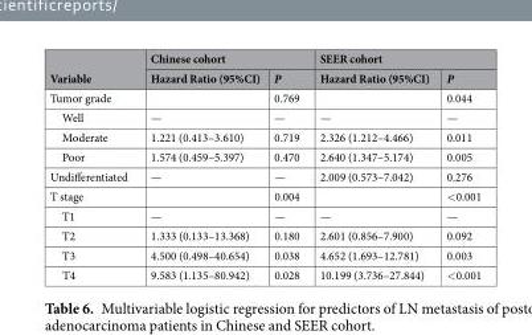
<table><thead><tr><td rowspan="2">Variable</td><td colspan="2">Chinese cohort</td><td colspan="2">SEER cohort</td></tr><tr><td>Hazard Ratio (95%CI)</td><td>P</td><td>Hazard Ratio (95%CI)</td><td>P</td></tr></thead><tbody><tr><td>Tumor grade</td><td></td><td>0.769</td><td></td><td>0.044</td></tr><tr><td>Well</td><td>—</td><td>—</td><td>—</td><td>—</td></tr><tr><td>Moderate</td><td>1.221 (0.413–3.610)</td><td>0.719</td><td>2.326 (1.212–4.466)</td><td>0.011</td></tr><tr><td>Poor</td><td>1.574 (0.459–5.397)</td><td>0.470</td><td>2.640 (1.347–5.174)</td><td>0.005</td></tr><tr><td>Undifferentiated</td><td>—</td><td>—</td><td>2.009 (0.573–7.042)</td><td>0.276</td></tr><tr><td>T stage</td><td></td><td>0.004</td><td></td><td>&lt;0.001</td></tr><tr><td>T1</td><td>—</td><td>—</td><td>—</td><td>—</td></tr><tr><td>T2</td><td>1.333 (0.133–13.368)</td><td>0.180</td><td>2.601 (0.856–7.900)</td><td>0.092</td></tr><tr><td>T3</td><td>4.500 (0.498–40.654)</td><td>0.038</td><td>4.652 (1.693–12.781)</td><td>0.003</td></tr><tr><td>T4</td><td>9.583 (1.135–80.942)</td><td>0.028</td><td>10.199 (3.736–27.844)</td><td>&lt;0.001</td></tr></tbody></table>